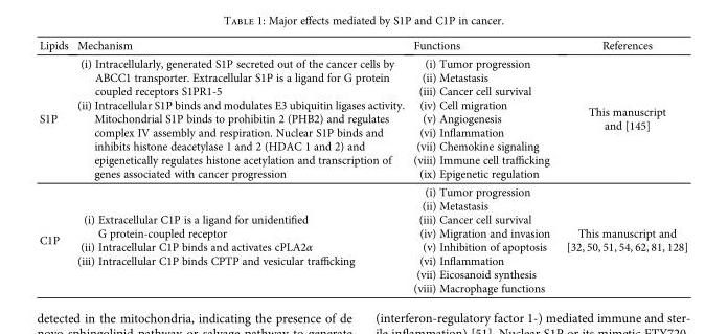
<table><thead><tr><td>Lipids</td><td>Mechanism</td><td>Functions</td><td>References</td></tr></thead><tbody><tr><td>S1P</td><td>(i) Intracellularly, generated S1P secreted out of the cancer cells by ABCC1 transporter. Extracellular S1P is a ligand for G protein coupled receptors S1PR1-5 (ii) Intracellular S1P binds and modulates E3 ubiquitin ligases activity. Mitochondrial S1P binds to prohibitin 2 (PHB2) and regulates complex IV assembly and respiration. Nuclear S1P binds and inhibits histone deacetylase 1 and 2 (HDAC 1 and 2) and epigenetically regulates histone acetylation and transcription of genes associated with cancer progression</td><td>(i) Tumor progression (ii) Metastasis (iii) Cancer cell survival (iv) Cell migration (v) Angiogenesis (vi) Inflammation (vii) Chemokine signaling (viii) Immune cell trafficking (ix) Epigenetic regulation</td><td>This manuscript and [145]</td></tr><tr><td>C1P</td><td>(i) Extracellular C1P is a ligand for unidentified G protein-coupled receptor (ii) Intracellular C1P binds and activates cPLA2α (iii) Intracellular C1P binds CPTP and vesicular trafficking</td><td>(i) Tumor progression (ii) Metastasis (iii) Cancer cell survival (iv) Migration and invasion (v) Inhibition of apoptosis (vi) Inflammation (vii) Eicosanoid synthesis (viii) Macrophage functions</td><td>This manuscript and [32, 50, 51, 54, 62, 81, 128]</td></tr></tbody></table>